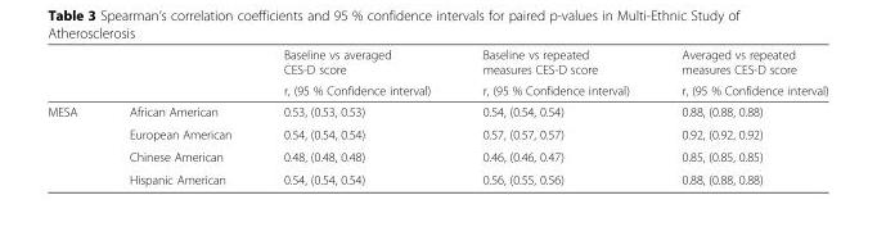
<table><thead><tr><td rowspan="2"></td><td rowspan="2"></td><td rowspan="2">Baseline vs averaged CES-D score r, (95 % Confidence interval)</td><td rowspan="2">Baseline vs repeated measures CES-D score r, (95 % Confidence interval)</td><td rowspan="2">Averaged vs repeated measures CES-D score r, (95 % Confidence interval)</td></tr><tr></tr></thead><tbody><tr><td rowspan="4">MESA</td><td>African American</td><td>0.53, (0.53, 0.53)</td><td>0.54, (0.54, 0.54)</td><td>0.88, (0.88, 0.88)</td></tr><tr><td>European American</td><td>0.54, (0.54, 0.54)</td><td>0.57, (0.57, 0.57)</td><td>0.92, (0.92, 0.92)</td></tr><tr><td>Chinese American</td><td>0.48, (0.48, 0.48)</td><td>0.46, (0.46, 0.47)</td><td>0.85, (0.85, 0.85)</td></tr><tr><td>Hispanic American</td><td>0.54, (0.54, 0.54)</td><td>0.56, (0.55, 0.56)</td><td>0.88, (0.88, 0.88)</td></tr></tbody></table>